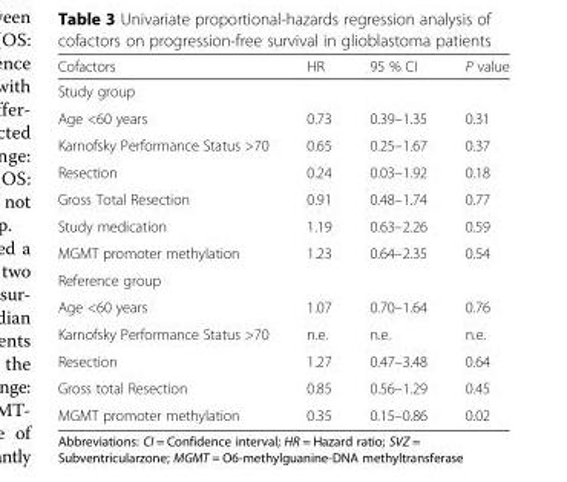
<table><thead><tr><td>Cofactors</td><td>HR</td><td>95 % CI</td><td>P value</td></tr></thead><tbody><tr><td colspan="4">Study group</td></tr><tr><td>Age &lt;60 years</td><td>0.73</td><td>0.39–1.35</td><td>0.31</td></tr><tr><td>Karnofsky Performance Status &gt;70</td><td>0.65</td><td>0.25–1.67</td><td>0.37</td></tr><tr><td>Resection</td><td>0.24</td><td>0.03–1.92</td><td>0.18</td></tr><tr><td>Gross Total Resection</td><td>0.91</td><td>0.48–1.74</td><td>0.77</td></tr><tr><td>Study medication</td><td>1.19</td><td>0.63–2.26</td><td>0.59</td></tr><tr><td>MGMT promoter methylation</td><td>1.23</td><td>0.64–2.35</td><td>0.54</td></tr><tr><td colspan="4">Reference group</td></tr><tr><td>Age &lt;60 years</td><td>1.07</td><td>0.70–1.64</td><td>0.76</td></tr><tr><td>Karnofsky Performance Status &gt;70</td><td>n.e.</td><td>n.e.</td><td>n.e.</td></tr><tr><td>Resection</td><td>1.27</td><td>0.47–3.48</td><td>0.64</td></tr><tr><td>Gross total Resection</td><td>0.85</td><td>0.56–1.29</td><td>0.45</td></tr><tr><td>MGMT promoter methylation</td><td>0.35</td><td>0.15–0.86</td><td>0.02</td></tr></tbody></table>